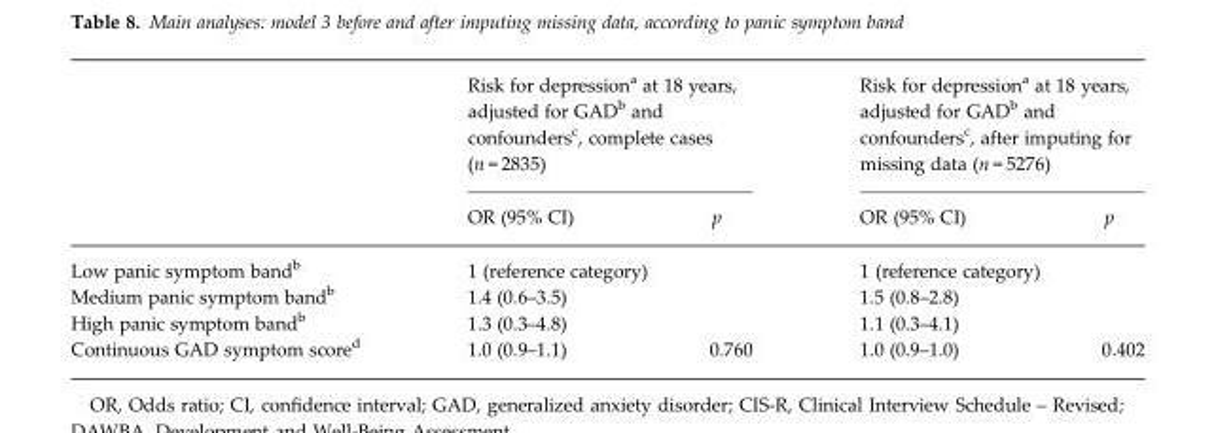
<table><thead><tr><td rowspan="2"></td><td colspan="2">Risk for depression<sup>a</sup> at 18 years, adjusted for GAD<sup>b</sup> and confounders<sup>c</sup>, complete cases (n = 2835)</td><td colspan="2">Risk for depression<sup>a</sup> at 18 years, adjusted for GAD<sup>b</sup> and confounders<sup>c</sup>, after imputing for missing data (n = 5276)</td></tr><tr><td>OR (95% CI)</td><td>p</td><td>OR (95% CI)</td><td>p</td></tr></thead><tbody><tr><td>Low panic symptom band<sup>b</sup></td><td colspan="2">1 (reference category)</td><td colspan="2">1 (reference category)</td></tr><tr><td>Medium panic symptom band<sup>b</sup></td><td colspan="2">1.4 (0.6–3.5)</td><td colspan="2">1.5 (0.8–2.8)</td></tr><tr><td>High panic symptom band<sup>b</sup></td><td colspan="2">1.3 (0.3–4.8)</td><td colspan="2">1.1 (0.3–4.1)</td></tr><tr><td>Continuous GAD symptom score<sup>d</sup></td><td>1.0 (0.9–1.1)</td><td>0.760</td><td>1.0 (0.9–1.0)</td><td>0.402</td></tr></tbody></table>